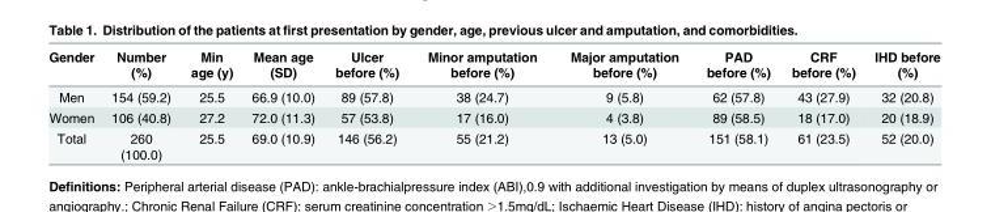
<table><thead><tr><td>Gender</td><td>Number (%)</td><td>Min age (y)</td><td>Mean age (SD)</td><td>Ulcer before (%)</td><td>Minor amputation before (%)</td><td>Major amputation before (%)</td><td>PAD before (%)</td><td>CRF before (%)</td><td>IHD before (%)</td></tr></thead><tbody><tr><td>Men</td><td>154 (59.2)</td><td>25.5</td><td>66.9 (10.0)</td><td>89 (57.8)</td><td>38 (24.7)</td><td>9 (5.8)</td><td>62 (57.8)</td><td>43 (27.9)</td><td>32 (20.8)</td></tr><tr><td>Women</td><td>106 (40.8)</td><td>27.2</td><td>72.0 (11.3)</td><td>57 (53.8)</td><td>17 (16.0)</td><td>4 (3.8)</td><td>89 (58.5)</td><td>18 (17.0)</td><td>20 (18.9)</td></tr><tr><td>Total</td><td>260 (100.0)</td><td>25.5</td><td>69.0 (10.9)</td><td>146 (56.2)</td><td>55 (21.2)</td><td>13 (5.0)</td><td>151 (58.1)</td><td>61 (23.5)</td><td>52 (20.0)</td></tr></tbody></table>